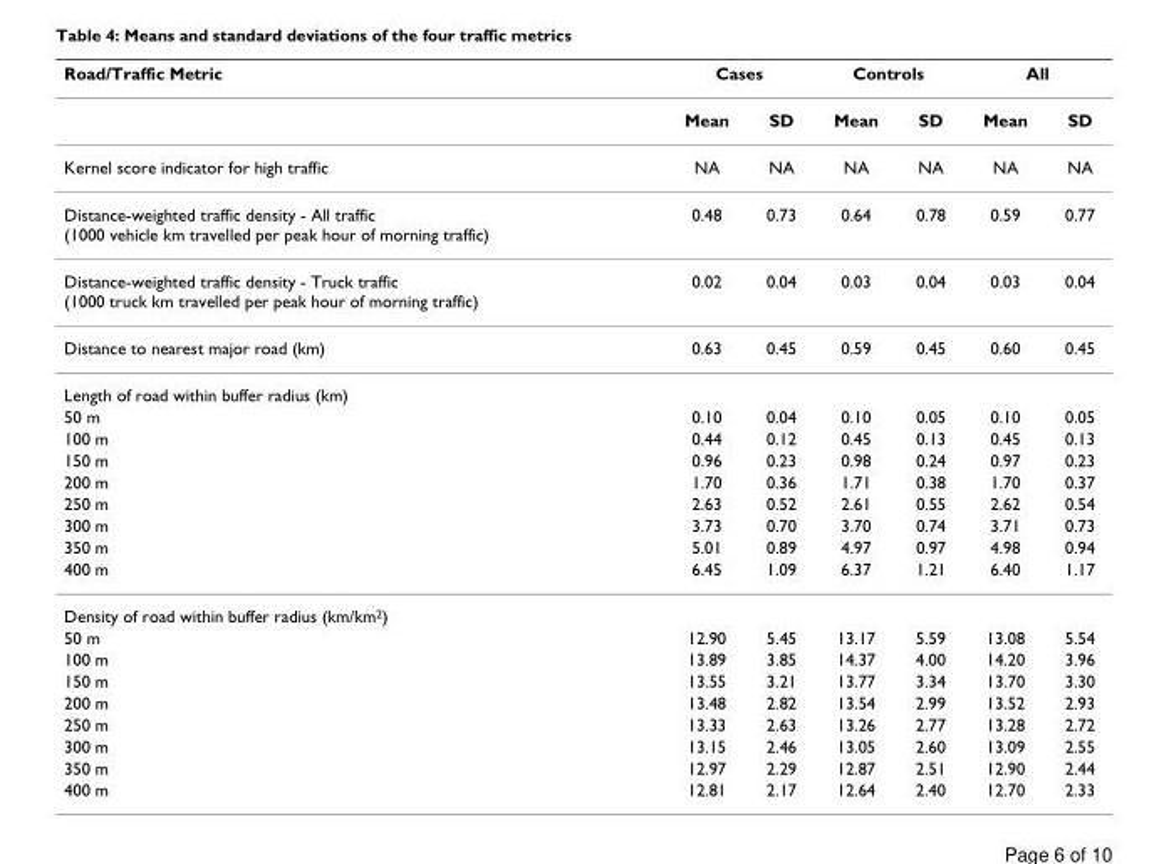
<table><thead><tr><td rowspan="2">Road/Traffic Metric</td><td colspan="2">Cases</td><td colspan="2">Controls</td><td colspan="2">All</td></tr><tr><td>Mean</td><td>SD</td><td>Mean</td><td>SD</td><td>Mean</td><td>SD</td></tr></thead><tbody><tr><td>Kernel score indicator for high traffic</td><td>NA</td><td>NA</td><td>NA</td><td>NA</td><td>NA</td><td>NA</td></tr><tr><td>Distance-weighted traffic density - All traffic (1000 vehicle km travelled per peak hour of morning traffic)</td><td>0.48</td><td>0.73</td><td>0.64</td><td>0.78</td><td>0.59</td><td>0.77</td></tr><tr><td>Distance-weighted traffic density - Truck traffic (1000 truck km travelled per peak hour of morning traffic)</td><td>0.02</td><td>0.04</td><td>0.03</td><td>0.04</td><td>0.03</td><td>0.04</td></tr><tr><td>Distance to nearest major road (km)</td><td>0.63</td><td>0.45</td><td>0.59</td><td>0.45</td><td>0.60</td><td>0.45</td></tr><tr><td colspan="7">Length of road within buffer radius (km)</td></tr><tr><td>50 m</td><td>0.10</td><td>0.04</td><td>0.10</td><td>0.05</td><td>0.10</td><td>0.05</td></tr><tr><td>100 m</td><td>0.44</td><td>0.12</td><td>0.45</td><td>0.13</td><td>0.45</td><td>0.13</td></tr><tr><td>150 m</td><td>0.96</td><td>0.23</td><td>0.98</td><td>0.24</td><td>0.97</td><td>0.23</td></tr><tr><td>200 m</td><td>1.70</td><td>0.36</td><td>1.71</td><td>0.38</td><td>1.70</td><td>0.37</td></tr><tr><td>250 m</td><td>2.63</td><td>0.52</td><td>2.61</td><td>0.55</td><td>2.62</td><td>0.54</td></tr><tr><td>300 m</td><td>3.73</td><td>0.70</td><td>3.70</td><td>0.74</td><td>3.71</td><td>0.73</td></tr><tr><td>350 m</td><td>5.01</td><td>0.89</td><td>4.97</td><td>0.97</td><td>4.98</td><td>0.94</td></tr><tr><td>400 m</td><td>6.45</td><td>1.09</td><td>6.37</td><td>1.21</td><td>6.40</td><td>1.17</td></tr><tr><td colspan="7">Density of road within buffer radius (km/km<sup>2</sup>)</td></tr><tr><td>50 m</td><td>12.90</td><td>5.45</td><td>13.17</td><td>5.59</td><td>13.08</td><td>5.54</td></tr><tr><td>100 m</td><td>13.89</td><td>3.85</td><td>14.37</td><td>4.00</td><td>14.20</td><td>3.96</td></tr><tr><td>150 m</td><td>13.55</td><td>3.21</td><td>13.77</td><td>3.34</td><td>13.70</td><td>3.30</td></tr><tr><td>200 m</td><td>13.48</td><td>2.82</td><td>13.54</td><td>2.99</td><td>13.52</td><td>2.93</td></tr><tr><td>250 m</td><td>13.33</td><td>2.63</td><td>13.26</td><td>2.77</td><td>13.28</td><td>2.72</td></tr><tr><td>300 m</td><td>13.15</td><td>2.46</td><td>13.05</td><td>2.60</td><td>13.09</td><td>2.55</td></tr><tr><td>350 m</td><td>12.97</td><td>2.29</td><td>12.87</td><td>2.51</td><td>12.90</td><td>2.44</td></tr><tr><td>400 m</td><td>12.81</td><td>2.17</td><td>12.64</td><td>2.40</td><td>12.70</td><td>2.33</td></tr></tbody></table>